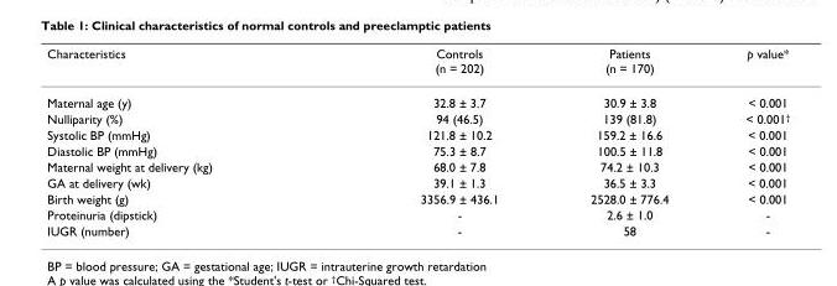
<table><thead><tr><td>Characteristics</td><td>Controls (n = 202)</td><td>Patients (n = 170)</td><td>p value*</td></tr></thead><tbody><tr><td>Maternal age (y)</td><td>32.8 ± 3.7</td><td>30.9 ± 3.8</td><td>&lt; 0.001</td></tr><tr><td>Nulliparity (%)</td><td>94 (46.5)</td><td>139 (81.8)</td><td>&lt; 0.001<sup>†</sup></td></tr><tr><td>Systolic BP (mmHg)</td><td>121.8 ± 10.2</td><td>159.2 ± 16.6</td><td>&lt; 0.001</td></tr><tr><td>Diastolic BP (mmHg)</td><td>75.3 ± 8.7</td><td>100.5 ± 11.8</td><td>&lt; 0.001</td></tr><tr><td>Maternal weight at delivery (kg)</td><td>68.0 ± 7.8</td><td>74.2 ± 10.3</td><td>&lt; 0.001</td></tr><tr><td>GA at delivery (wk)</td><td>39.1 ± 1.3</td><td>36.5 ± 3.3</td><td>&lt; 0.001</td></tr><tr><td>Birth weight (g)</td><td>3356.9 ± 436.1</td><td>2528.0 ± 776.4</td><td>&lt; 0.001</td></tr><tr><td>Proteinuria (dipstick)</td><td>-</td><td>2.6 ± 1.0</td><td>-</td></tr><tr><td>IUGR (number)</td><td>-</td><td>58</td><td>-</td></tr></tbody></table>